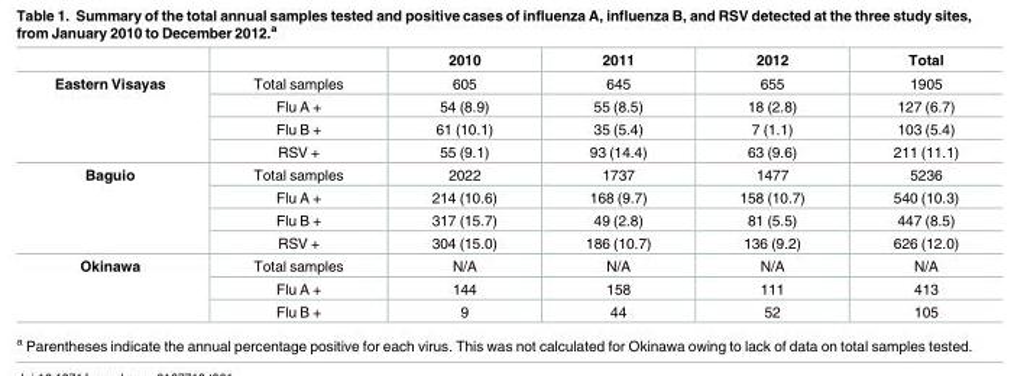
<table><thead><tr><td></td><td></td><td>2010</td><td>2011</td><td>2012</td><td>Total</td></tr></thead><tbody><tr><td rowspan="4">Eastern Visayas</td><td>Total samples</td><td>605</td><td>645</td><td>655</td><td>1905</td></tr><tr><td>Flu A +</td><td>54 (8.9)</td><td>55 (8.5)</td><td>18 (2.8)</td><td>127 (6.7)</td></tr><tr><td>Flu B +</td><td>61 (10.1)</td><td>35 (5.4)</td><td>7 (1.1)</td><td>103 (5.4)</td></tr><tr><td>RSV +</td><td>55 (9.1)</td><td>93 (14.4)</td><td>63 (9.6)</td><td>211 (11.1)</td></tr><tr><td rowspan="4">Baguio</td><td>Total samples</td><td>2022</td><td>1737</td><td>1477</td><td>5236</td></tr><tr><td>Flu A +</td><td>214 (10.6)</td><td>168 (9.7)</td><td>158 (10.7)</td><td>540 (10.3)</td></tr><tr><td>Flu B +</td><td>317 (15.7)</td><td>49 (2.8)</td><td>81 (5.5)</td><td>447 (8.5)</td></tr><tr><td>RSV +</td><td>304 (15.0)</td><td>186 (10.7)</td><td>136 (9.2)</td><td>626 (12.0)</td></tr><tr><td rowspan="3">Okinawa</td><td>Total samples</td><td>N/A</td><td>N/A</td><td>N/A</td><td>N/A</td></tr><tr><td>Flu A +</td><td>144</td><td>158</td><td>111</td><td>413</td></tr><tr><td>Flu B +</td><td>9</td><td>44</td><td>52</td><td>105</td></tr></tbody></table>